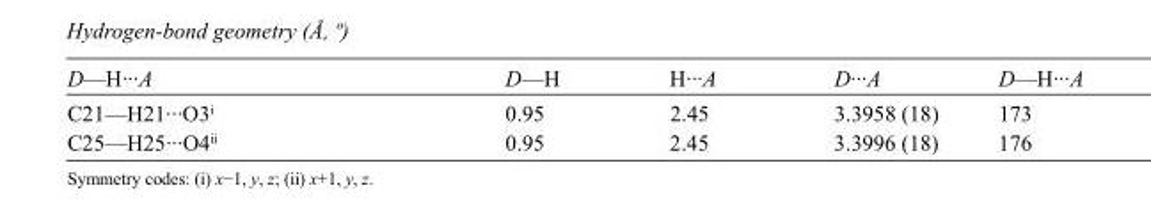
<table><tbody><tr><td>D—H···A</td><td>D—H</td><td>H···A</td><td>D···A</td><td>D—H···A</td></tr><tr><td>C21—H21···O3<sup>i</sup></td><td>0.95</td><td>2.45</td><td>3.3958 (18)</td><td>173</td></tr><tr><td>C25—H25···O4<sup>ii</sup></td><td>0.95</td><td>2.45</td><td>3.3996 (18)</td><td>176</td></tr></tbody></table>